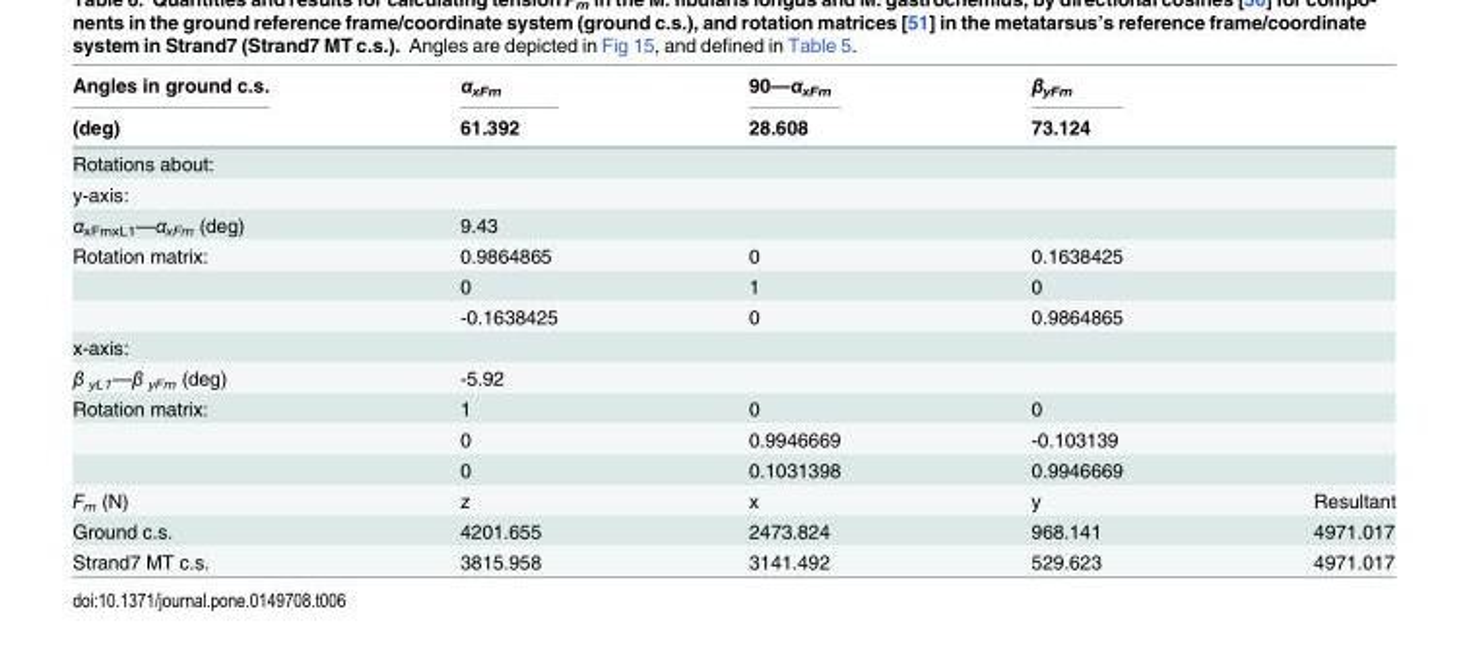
<table><thead><tr><td rowspan="2">Angles in ground c.s. (deg)</td><td rowspan="2">α<sub>xFm</sub> 61.392</td><td rowspan="2">90—α<sub>xFm</sub> 28.608</td><td rowspan="2">β<sub>yFm</sub> 73.124</td><td rowspan="2"></td></tr><tr></tr></thead><tbody><tr><td colspan="5">Rotations about:</td></tr><tr><td colspan="5">y-axis:</td></tr><tr><td>α<sub>xFmxL1</sub>—α<sub>xFm</sub> (deg)</td><td>9.43</td><td></td><td></td><td></td></tr><tr><td rowspan="3">Rotation matrix:</td><td>0.9864865</td><td>0</td><td>0.1638425</td><td></td></tr><tr><td>0</td><td>1</td><td>0</td><td></td></tr><tr><td>-0.1638425</td><td>0</td><td>0.9864865</td><td></td></tr><tr><td colspan="5">x-axis:</td></tr><tr><td>β <sub>yL1</sub>—β <sub>yFm</sub> (deg)</td><td>-5.92</td><td></td><td></td><td></td></tr><tr><td rowspan="3">Rotation matrix:</td><td>1</td><td>0</td><td>0</td><td></td></tr><tr><td>0</td><td>0.9946669</td><td>-0.103139</td><td></td></tr><tr><td>0</td><td>0.1031398</td><td>0.9946669</td><td></td></tr><tr><td>F<sub>m</sub> (N)</td><td>z</td><td>x</td><td>y</td><td>Resultant</td></tr><tr><td>Ground c.s.</td><td>4201.655</td><td>2473.824</td><td>968.141</td><td>4971.017</td></tr><tr><td>Strand7 MT c.s.</td><td>3815.958</td><td>3141.492</td><td>529.623</td><td>4971.017</td></tr></tbody></table>